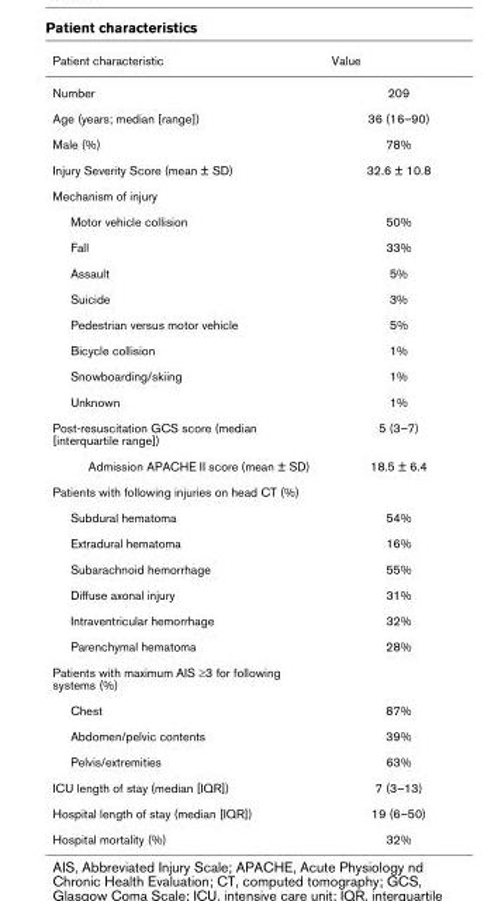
<table><thead><tr><td>Patient characteristic</td><td>Value</td></tr></thead><tbody><tr><td>Number</td><td>209</td></tr><tr><td>Age (years; median [range])</td><td>36 (16–90)</td></tr><tr><td>Male (%)</td><td>78%</td></tr><tr><td>Injury Severity Score (mean ± SD)</td><td>32.6 ± 10.8</td></tr><tr><td colspan="2">Mechanism of injury</td></tr><tr><td>Motor vehicle collision</td><td>50%</td></tr><tr><td>Fall</td><td>33%</td></tr><tr><td>Assault</td><td>5%</td></tr><tr><td>Suicide</td><td>3%</td></tr><tr><td>Pedestrian versus motor vehicle</td><td>5%</td></tr><tr><td>Bicycle collision</td><td>1%</td></tr><tr><td>Snowboarding/skiing</td><td>1%</td></tr><tr><td>Unknown</td><td>1%</td></tr><tr><td>Post-resuscitation GCS score (median [interquartile range])</td><td>5 (3–7)</td></tr><tr><td>Admission APACHE II score (mean ± SD)</td><td>18.5 ± 6.4</td></tr><tr><td colspan="2">Patients with following injuries on head CT (%)</td></tr><tr><td>Subdural hematoma</td><td>54%</td></tr><tr><td>Extradural hematoma</td><td>16%</td></tr><tr><td>Subarachnoid hemorrhage</td><td>55%</td></tr><tr><td>Diffuse axonal injury</td><td>31%</td></tr><tr><td>Intraventricular hemorrhage</td><td>32%</td></tr><tr><td>Parenchymal hematoma</td><td>28%</td></tr><tr><td colspan="2">Patients with maximum AIS ≥3 for following systems (%)</td></tr><tr><td>Chest</td><td>87%</td></tr><tr><td>Abdomen/pelvic contents</td><td>39%</td></tr><tr><td>Pelvis/extremities</td><td>63%</td></tr><tr><td>ICU length of stay (median [IQR])</td><td>7 (3–13)</td></tr><tr><td>Hospital length of stay (median [IQR])</td><td>19 (6–50)</td></tr><tr><td>Hospital mortality (%)</td><td>32%</td></tr></tbody></table>